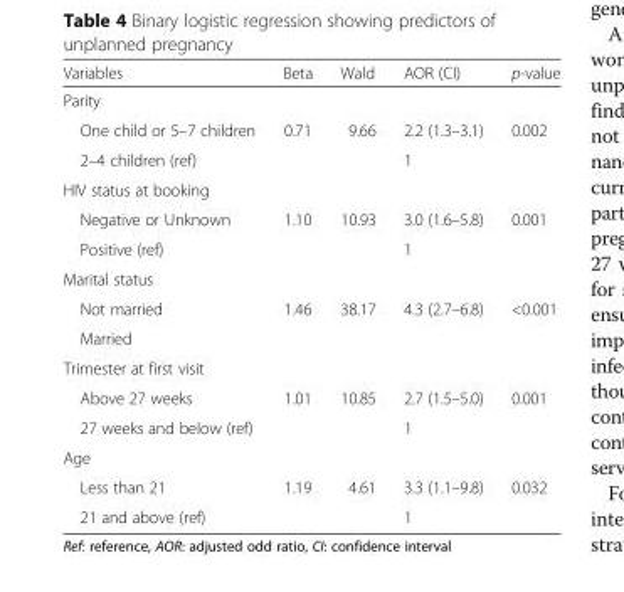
<table><thead><tr><td>Variables</td><td>Beta</td><td>Wald</td><td>AOR (CI)</td><td>p-value</td></tr></thead><tbody><tr><td colspan="5">Parity</td></tr><tr><td>One child or 5–7 children</td><td>0.71</td><td>9.66</td><td>2.2 (1.3–3.1)</td><td>0.002</td></tr><tr><td>2–4 children (ref)</td><td></td><td></td><td>1</td><td></td></tr><tr><td colspan="5">HIV status at booking</td></tr><tr><td>Negative or Unknown</td><td>1.10</td><td>10.93</td><td>3.0 (1.6–5.8)</td><td>0.001</td></tr><tr><td>Positive (ref)</td><td></td><td></td><td>1</td><td></td></tr><tr><td colspan="5">Marital status</td></tr><tr><td>Not married</td><td>1.46</td><td>38.17</td><td>4.3 (2.7–6.8)</td><td>&lt;0.001</td></tr><tr><td colspan="5">Married</td></tr><tr><td colspan="5">Trimester at first visit</td></tr><tr><td>Above 27 weeks</td><td>1.01</td><td>10.85</td><td>2.7 (1.5–5.0)</td><td>0.001</td></tr><tr><td>27 weeks and below (ref)</td><td></td><td></td><td>1</td><td></td></tr><tr><td colspan="5">Age</td></tr><tr><td>Less than 21</td><td>1.19</td><td>4.61</td><td>3.3 (1.1–9.8)</td><td>0.032</td></tr><tr><td>21 and above (ref)</td><td></td><td></td><td>1</td><td></td></tr></tbody></table>